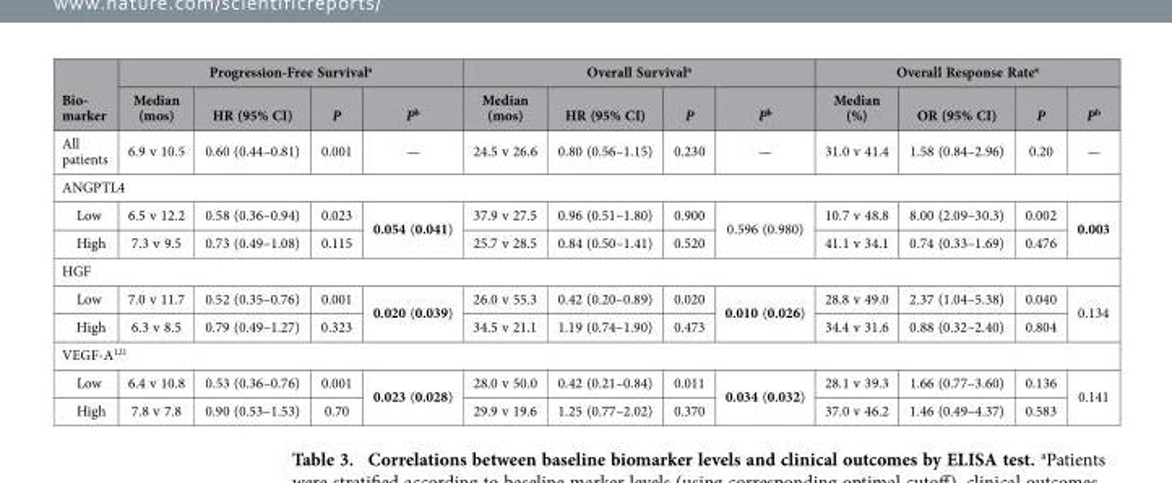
<table><thead><tr><td rowspan="2">Bio- marker</td><td colspan="4">Progression-Free Survival<sup>a</sup></td><td colspan="4">Overall Survival<sup>a</sup></td><td colspan="4">Overall Response Rate<sup>a</sup></td></tr><tr><td>Median (mos)</td><td>HR (95% CI)</td><td>P</td><td>P<sup>b</sup></td><td>Median (mos)</td><td>HR (95% CI)</td><td>P</td><td>P<sup>b</sup></td><td>Median (%)</td><td>OR (95% CI)</td><td>P</td><td>P<sup>b</sup></td></tr></thead><tbody><tr><td>All patients</td><td>6.9 v 10.5</td><td>0.60 (0.44–0.81)</td><td>0.001</td><td>—</td><td>24.5 v 26.6</td><td>0.80 (0.56–1.15)</td><td>0.230</td><td>—</td><td>31.0 v 41.4</td><td>1.58 (0.84–2.96)</td><td>0.20</td><td>—</td></tr><tr><td colspan="13">ANGPTL4</td></tr><tr><td>Low</td><td>6.5 v 12.2</td><td>0.58 (0.36–0.94)</td><td>0.023</td><td rowspan="2">0.054 (0.041)</td><td>37.9 v 27.5</td><td>0.96 (0.51–1.80)</td><td>0.900</td><td rowspan="2">0.596 (0.980)</td><td>10.7 v 48.8</td><td>8.00 (2.09–30.3)</td><td>0.002</td><td rowspan="2">0.003</td></tr><tr><td>High</td><td>7.3 v 9.5</td><td>0.73 (0.49–1.08)</td><td>0.115</td><td>25.7 v 28.5</td><td>0.84 (0.50–1.41)</td><td>0.520</td><td>41.1 v 34.1</td><td>0.74 (0.33–1.69)</td><td>0.476</td></tr><tr><td colspan="13">HGF</td></tr><tr><td>Low</td><td>7.0 v 11.7</td><td>0.52 (0.35–0.76)</td><td>0.001</td><td rowspan="2">0.020 (0.039)</td><td>26.0 v 55.3</td><td>0.42 (0.20–0.89)</td><td>0.020</td><td rowspan="2">0.010 (0.026)</td><td>28.8 v 49.0</td><td>2.37 (1.04–5.38)</td><td>0.040</td><td rowspan="2">0.134</td></tr><tr><td>High</td><td>6.3 v 8.5</td><td>0.79 (0.49–1.27)</td><td>0.323</td><td>34.5 v 21.1</td><td>1.19 (0.74–1.90)</td><td>0.473</td><td>34.4 v 31.6</td><td>0.88 (0.32–2.40)</td><td>0.804</td></tr><tr><td colspan="13">VEGF-A<sup>121</sup></td></tr><tr><td>Low</td><td>6.4 v 10.8</td><td>0.53 (0.36–0.76)</td><td>0.001</td><td rowspan="2">0.023 (0.028)</td><td>28.0 v 50.0</td><td>0.42 (0.21–0.84)</td><td>0.011</td><td rowspan="2">0.034 (0.032)</td><td>28.1 v 39.3</td><td>1.66 (0.77–3.60)</td><td>0.136</td><td rowspan="2">0.141</td></tr><tr><td>High</td><td>7.8 v 7.8</td><td>0.90 (0.53–1.53)</td><td>0.70</td><td>29.9 v 19.6</td><td>1.25 (0.77–2.02)</td><td>0.370</td><td>37.0 v 46.2</td><td>1.46 (0.49–4.37)</td><td>0.583</td></tr></tbody></table>